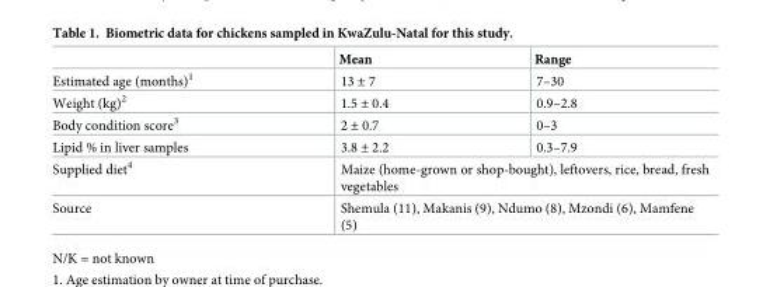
<table><thead><tr><td></td><td>Mean</td><td>Range</td></tr></thead><tbody><tr><td>Estimated age (months)<sup>1</sup></td><td>13 ± 7</td><td>7–30</td></tr><tr><td>Weight (kg)<sup>2</sup></td><td>1.5 ± 0.4</td><td>0.9–2.8</td></tr><tr><td>Body condition score<sup>3</sup></td><td>2 ± 0.7</td><td>0–3</td></tr><tr><td>Lipid % in liver samples</td><td>3.8 ± 2.2</td><td>0.3–7.9</td></tr><tr><td>Supplied diet<sup>4</sup></td><td colspan="2">Maize (home-grown or shop-bought), leftovers, rice, bread, fresh vegetables</td></tr><tr><td>Source</td><td colspan="2">Shemula (11), Makanis (9), Ndumo (8), Mzondi (6), Mamfene (5)</td></tr></tbody></table>